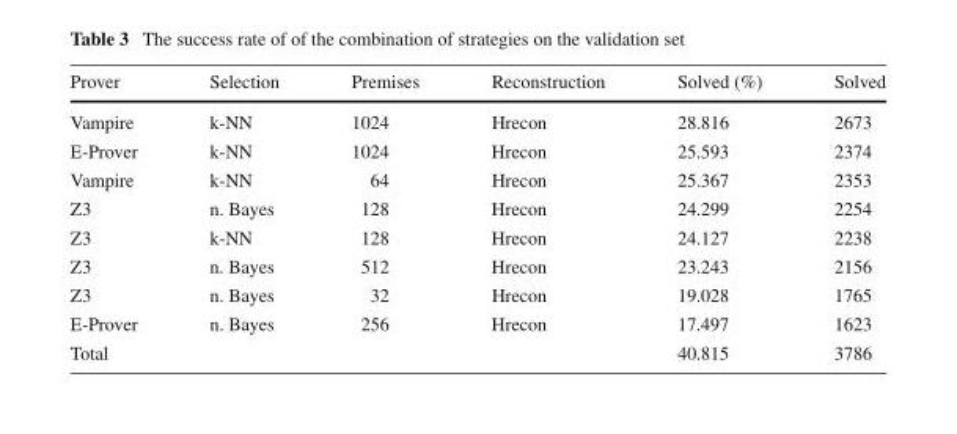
<table><thead><tr><td>Prover</td><td>Selection</td><td>Premises</td><td>Reconstruction</td><td>Solved (%)</td><td>Solved</td></tr></thead><tbody><tr><td>Vampire</td><td>k-NN</td><td>1024</td><td>Hrecon</td><td>28.816</td><td>2673</td></tr><tr><td>E-Prover</td><td>k-NN</td><td>1024</td><td>Hrecon</td><td>25.593</td><td>2374</td></tr><tr><td>Vampire</td><td>k-NN</td><td>64</td><td>Hrecon</td><td>25.367</td><td>2353</td></tr><tr><td>Z3</td><td>n. Bayes</td><td>128</td><td>Hrecon</td><td>24.299</td><td>2254</td></tr><tr><td>Z3</td><td>k-NN</td><td>128</td><td>Hrecon</td><td>24.127</td><td>2238</td></tr><tr><td>Z3</td><td>n. Bayes</td><td>512</td><td>Hrecon</td><td>23.243</td><td>2156</td></tr><tr><td>Z3</td><td>n. Bayes</td><td>32</td><td>Hrecon</td><td>19.028</td><td>1765</td></tr><tr><td>E-Prover</td><td>n. Bayes</td><td>256</td><td>Hrecon</td><td>17.497</td><td>1623</td></tr><tr><td>Total</td><td></td><td></td><td></td><td>40.815</td><td>3786</td></tr></tbody></table>